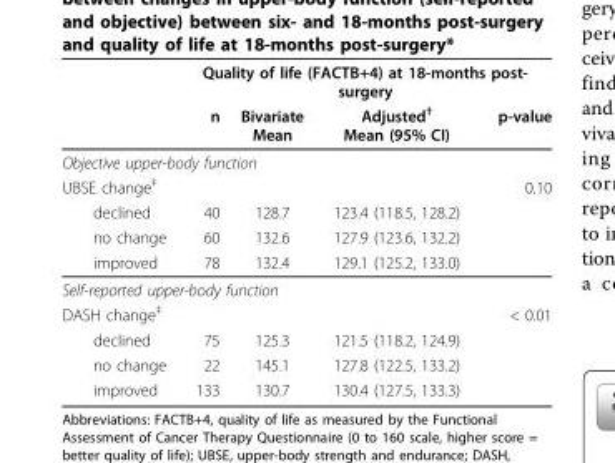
<table><thead><tr><td rowspan="2"></td><td colspan="4">Quality of life (FACTB+4) at 18-months post- surgery</td></tr><tr><td>n</td><td>Bivariate Mean</td><td>Adjusted<sup>†</sup> Mean (95% CI)</td><td>p-value</td></tr></thead><tbody><tr><td colspan="5">Objective upper-body function</td></tr><tr><td>UBSE change<sup>‡</sup></td><td></td><td></td><td></td><td>0.10</td></tr><tr><td>declined</td><td>40</td><td>128.7</td><td>123.4 (118.5, 128.2)</td><td></td></tr><tr><td>no change</td><td>60</td><td>132.6</td><td>127.9 (123.6, 132.2)</td><td></td></tr><tr><td>improved</td><td>78</td><td>132.4</td><td>129.1 (125.2, 133.0)</td><td></td></tr><tr><td colspan="5">Self-reported upper-body function</td></tr><tr><td>DASH change<sup>‡</sup></td><td></td><td></td><td></td><td>&lt; 0.01</td></tr><tr><td>declined</td><td>75</td><td>125.3</td><td>121.5 (118.2, 124.9)</td><td></td></tr><tr><td>no change</td><td>22</td><td>145.1</td><td>127.8 (122.5, 133.2)</td><td></td></tr><tr><td>improved</td><td>133</td><td>130.7</td><td>130.4 (127.5, 133.3)</td><td></td></tr></tbody></table>